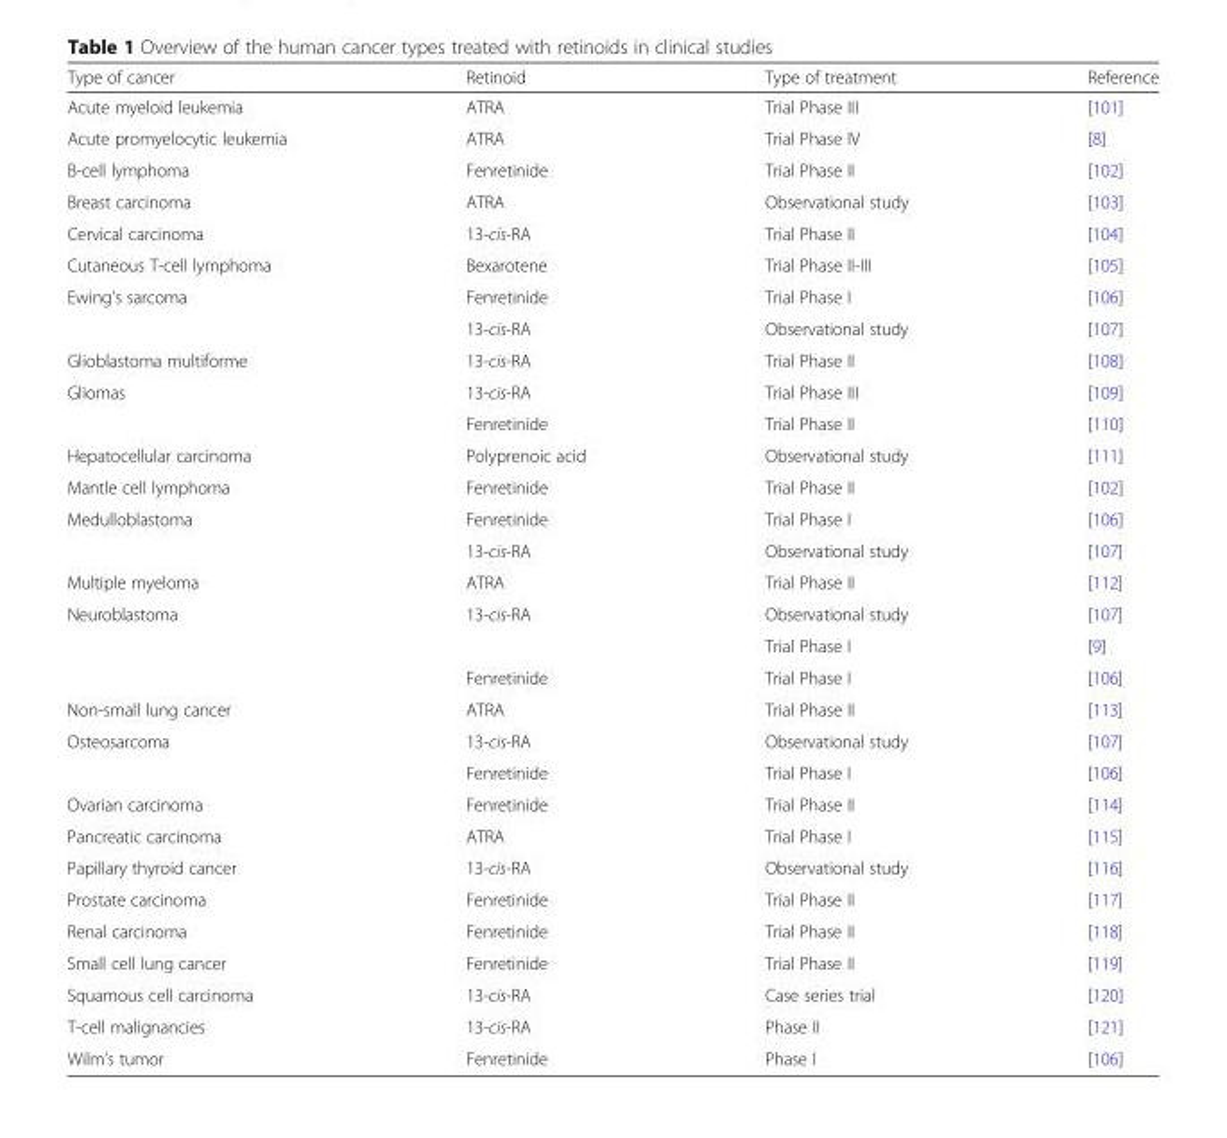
<table><thead><tr><td>Type of cancer</td><td>Retinoid</td><td>Type of treatment</td><td>Reference</td></tr></thead><tbody><tr><td>Acute myeloid leukemia</td><td>ATRA</td><td>Trial Phase III</td><td>[101]</td></tr><tr><td>Acute promyelocytic leukemia</td><td>ATRA</td><td>Trial Phase IV</td><td>[8]</td></tr><tr><td>B-cell lymphoma</td><td>Fenretinide</td><td>Trial Phase II</td><td>[102]</td></tr><tr><td>Breast carcinoma</td><td>ATRA</td><td>Observational study</td><td>[103]</td></tr><tr><td>Cervical carcinoma</td><td>13-cis-RA</td><td>Trial Phase II</td><td>[104]</td></tr><tr><td>Cutaneous T-cell lymphoma</td><td>Bexarotene</td><td>Trial Phase II-III</td><td>[105]</td></tr><tr><td rowspan="2">Ewing’s sarcoma</td><td>Fenretinide</td><td>Trial Phase I</td><td>[106]</td></tr><tr><td>13-cis-RA</td><td>Observational study</td><td>[107]</td></tr><tr><td>Glioblastoma multiforme</td><td>13-cis-RA</td><td>Trial Phase II</td><td>[108]</td></tr><tr><td rowspan="2">Gliomas</td><td>13-cis-RA</td><td>Trial Phase III</td><td>[109]</td></tr><tr><td>Fenretinide</td><td>Trial Phase II</td><td>[110]</td></tr><tr><td>Hepatocellular carcinoma</td><td>Polyprenoic acid</td><td>Observational study</td><td>[111]</td></tr><tr><td>Mantle cell lymphoma</td><td>Fenretinide</td><td>Trial Phase II</td><td>[102]</td></tr><tr><td rowspan="2">Medulloblastoma</td><td>Fenretinide</td><td>Trial Phase I</td><td>[106]</td></tr><tr><td>13-cis-RA</td><td>Observational study</td><td>[107]</td></tr><tr><td>Multiple myeloma</td><td>ATRA</td><td>Trial Phase II</td><td>[112]</td></tr><tr><td rowspan="3">Neuroblastoma</td><td rowspan="2">13-cis-RA</td><td>Observational study</td><td>[107]</td></tr><tr><td>Trial Phase I</td><td>[9]</td></tr><tr><td>Fenretinide</td><td>Trial Phase I</td><td>[106]</td></tr><tr><td>Non-small lung cancer</td><td>ATRA</td><td>Trial Phase II</td><td>[113]</td></tr><tr><td rowspan="2">Osteosarcoma</td><td>13-cis-RA</td><td>Observational study</td><td>[107]</td></tr><tr><td>Fenretinide</td><td>Trial Phase I</td><td>[106]</td></tr><tr><td>Ovarian carcinoma</td><td>Fenretinide</td><td>Trial Phase II</td><td>[114]</td></tr><tr><td>Pancreatic carcinoma</td><td>ATRA</td><td>Trial Phase I</td><td>[115]</td></tr><tr><td>Papillary thyroid cancer</td><td>13-cis-RA</td><td>Observational study</td><td>[116]</td></tr><tr><td>Prostate carcinoma</td><td>Fenretinide</td><td>Trial Phase II</td><td>[117]</td></tr><tr><td>Renal carcinoma</td><td>Fenretinide</td><td>Trial Phase II</td><td>[118]</td></tr><tr><td>Small cell lung cancer</td><td>Fenretinide</td><td>Trial Phase II</td><td>[119]</td></tr><tr><td>Squamous cell carcinoma</td><td>13-cis-RA</td><td>Case series trial</td><td>[120]</td></tr><tr><td>T-cell malignancies</td><td>13-cis-RA</td><td>Phase II</td><td>[121]</td></tr><tr><td>Wilm’s tumor</td><td>Fenretinide</td><td>Phase I</td><td>[106]</td></tr></tbody></table>